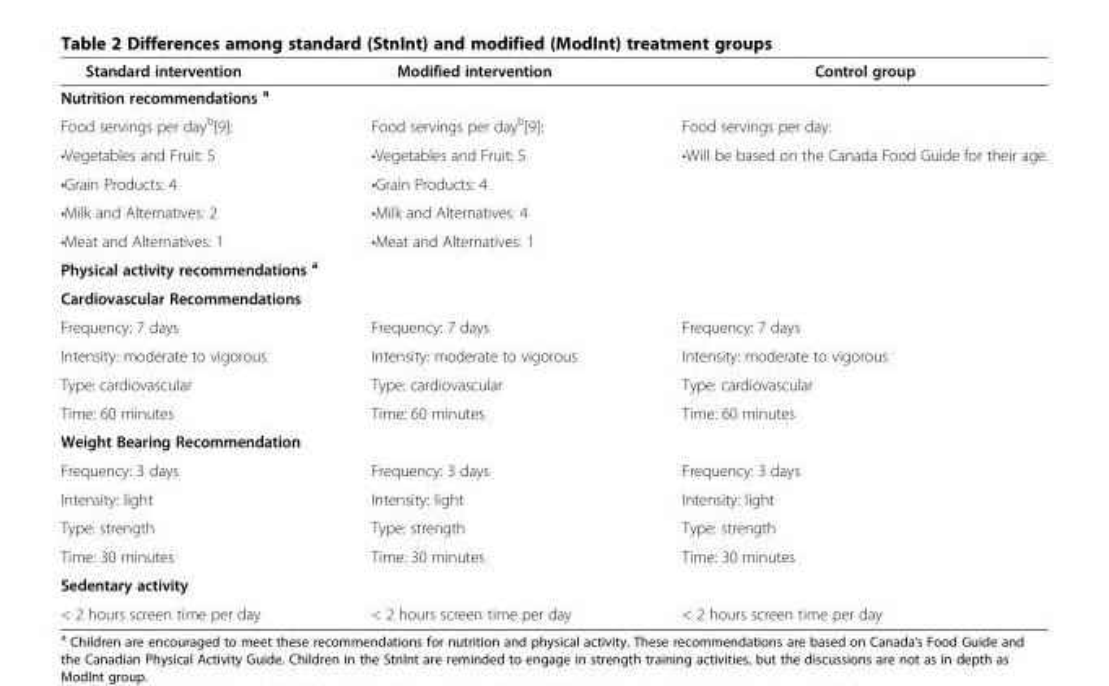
<table><thead><tr><td>Standard intervention</td><td>Modified intervention</td><td>Control group</td></tr></thead><tbody><tr><td colspan="3">Nutrition recommendations <sup>a</sup></td></tr><tr><td>Food servings per day<sup>b</sup>[9]:</td><td>Food servings per day<sup>b</sup>[9]:</td><td>Food servings per day:</td></tr><tr><td>•Vegetables and Fruit: 5</td><td>•Vegetables and Fruit: 5</td><td rowspan="4">•Will be based on the Canada Food Guide for their age.</td></tr><tr><td>•Grain Products: 4</td><td>•Grain Products: 4</td></tr><tr><td>•Milk and Alternatives: 2</td><td>•Milk and Alternatives: 4</td></tr><tr><td>•Meat and Alternatives: 1</td><td>•Meat and Alternatives: 1</td></tr><tr><td colspan="3">Physical activity recommendations <sup>a</sup></td></tr><tr><td colspan="3">Cardiovascular Recommendations</td></tr><tr><td>Frequency: 7 days</td><td>Frequency: 7 days</td><td>Frequency: 7 days</td></tr><tr><td>Intensity: moderate to vigorous</td><td>Intensity: moderate to vigorous</td><td>Intensity: moderate to vigorous</td></tr><tr><td>Type: cardiovascular</td><td>Type: cardiovascular</td><td>Type: cardiovascular</td></tr><tr><td>Time: 60 minutes</td><td>Time: 60 minutes</td><td>Time: 60 minutes</td></tr><tr><td colspan="3">Weight Bearing Recommendation</td></tr><tr><td>Frequency: 3 days</td><td>Frequency: 3 days</td><td>Frequency: 3 days</td></tr><tr><td>Intensity: light</td><td>Intensity: light</td><td>Intensity: light</td></tr><tr><td>Type: strength</td><td>Type: strength</td><td>Type: strength</td></tr><tr><td>Time: 30 minutes</td><td>Time: 30 minutes</td><td>Time: 30 minutes</td></tr><tr><td colspan="3">Sedentary activity</td></tr><tr><td>&lt; 2 hours screen time per day</td><td>&lt; 2 hours screen time per day</td><td>&lt; 2 hours screen time per day</td></tr></tbody></table>